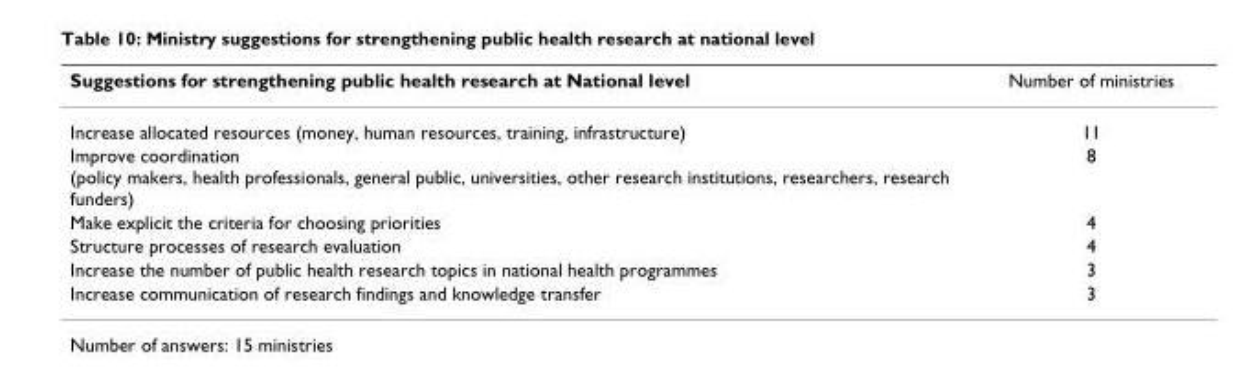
<table><thead><tr><td>Suggestions for strengthening public health research at National level</td><td>Number of ministries</td></tr></thead><tbody><tr><td>Increase allocated resources (money, human resources, training, infrastructure)</td><td>11</td></tr><tr><td>Improve coordination (policy makers, health professionals, general public, universities, other research institutions, researchers, research funders)</td><td>8</td></tr><tr><td>Make explicit the criteria for choosing priorities</td><td>4</td></tr><tr><td>Structure processes of research evaluation</td><td>4</td></tr><tr><td>Increase the number of public health research topics in national health programmes</td><td>3</td></tr><tr><td>Increase communication of research findings and knowledge transfer</td><td>3</td></tr></tbody></table>